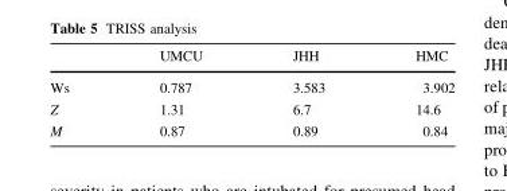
<table><thead><tr><td></td><td>UMCU</td><td>JHH</td><td>HMC</td></tr></thead><tbody><tr><td>Ws</td><td>0.787</td><td>3.583</td><td>3.902</td></tr><tr><td>Z</td><td>1.31</td><td>6.7</td><td>14.6</td></tr><tr><td>M</td><td>0.87</td><td>0.89</td><td>0.84</td></tr></tbody></table>